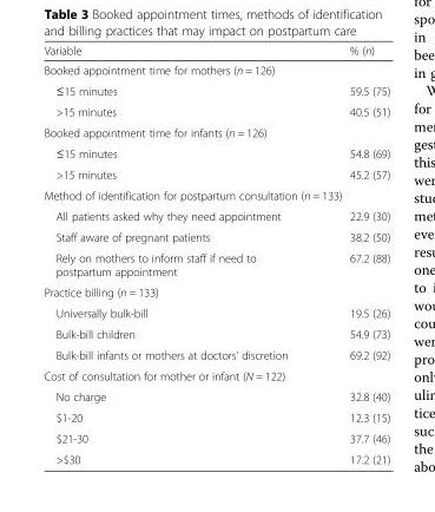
<table><thead><tr><td>Variable</td><td>% (n)</td></tr></thead><tbody><tr><td colspan="2">Booked appointment time for mothers (n = 126)</td></tr><tr><td>≤15 minutes</td><td>59.5 (75)</td></tr><tr><td>&gt;15 minutes</td><td>40.5 (51)</td></tr><tr><td colspan="2">Booked appointment time for infants (n = 126)</td></tr><tr><td>≤15 minutes</td><td>54.8 (69)</td></tr><tr><td>&gt;15 minutes</td><td>45.2 (57)</td></tr><tr><td colspan="2">Method of identification for postpartum consultation (n = 133)</td></tr><tr><td>All patients asked why they need appointment</td><td>22.9 (30)</td></tr><tr><td>Staff aware of pregnant patients</td><td>38.2 (50)</td></tr><tr><td>Rely on mothers to inform staff if need to postpartum appointment</td><td>67.2 (88)</td></tr><tr><td colspan="2">Practice billing (n = 133)</td></tr><tr><td>Universally bulk-bill</td><td>19.5 (26)</td></tr><tr><td>Bulk-bill children</td><td>54.9 (73)</td></tr><tr><td>Bulk-bill infants or mothers at doctors’ discretion</td><td>69.2 (92)</td></tr><tr><td colspan="2">Cost of consultation for mother or infant (N = 122)</td></tr><tr><td>No charge</td><td>32.8 (40)</td></tr><tr><td>$1-20</td><td>12.3 (15)</td></tr><tr><td>$21-30</td><td>37.7 (46)</td></tr><tr><td>&gt;$30</td><td>17.2 (21)</td></tr></tbody></table>